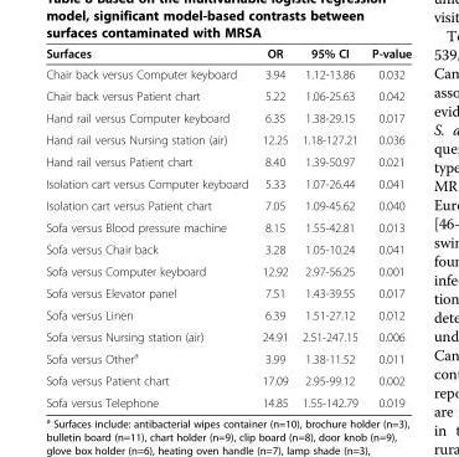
<table><thead><tr><td>Surfaces</td><td>OR</td><td>95% CI</td><td>P-value</td></tr></thead><tbody><tr><td>Chair back versus Computer keyboard</td><td>3.94</td><td>1.12-13.86</td><td>0.032</td></tr><tr><td>Chair back versus Patient chart</td><td>5.22</td><td>1.06-25.63</td><td>0.042</td></tr><tr><td>Hand rail versus Computer keyboard</td><td>6.35</td><td>1.38-29.15</td><td>0.017</td></tr><tr><td>Hand rail versus Nursing station (air)</td><td>12.25</td><td>1.18-127.21</td><td>0.036</td></tr><tr><td>Hand rail versus Patient chart</td><td>8.40</td><td>1.39-50.97</td><td>0.021</td></tr><tr><td>Isolation cart versus Computer keyboard</td><td>5.33</td><td>1.07-26.44</td><td>0.041</td></tr><tr><td>Isolation cart versus Patient chart</td><td>7.05</td><td>1.09-45.62</td><td>0.040</td></tr><tr><td>Sofa versus Blood pressure machine</td><td>8.15</td><td>1.55-42.81</td><td>0.013</td></tr><tr><td>Sofa versus Chair back</td><td>3.28</td><td>1.05-10.24</td><td>0.041</td></tr><tr><td>Sofa versus Computer keyboard</td><td>12.92</td><td>2.97-56.25</td><td>0.001</td></tr><tr><td>Sofa versus Elevator panel</td><td>7.51</td><td>1.43-39.55</td><td>0.017</td></tr><tr><td>Sofa versus Linen</td><td>6.39</td><td>1.51-27.12</td><td>0.012</td></tr><tr><td>Sofa versus Nursing station (air)</td><td>24.91</td><td>2.51-247.15</td><td>0.006</td></tr><tr><td>Sofa versus Other<sup>a</sup></td><td>3.99</td><td>1.38-11.52</td><td>0.011</td></tr><tr><td>Sofa versus Patient chart</td><td>17.09</td><td>2.95-99.12</td><td>0.002</td></tr><tr><td>Sofa versus Telephone</td><td>14.85</td><td>1.55-142.79</td><td>0.019</td></tr></tbody></table>